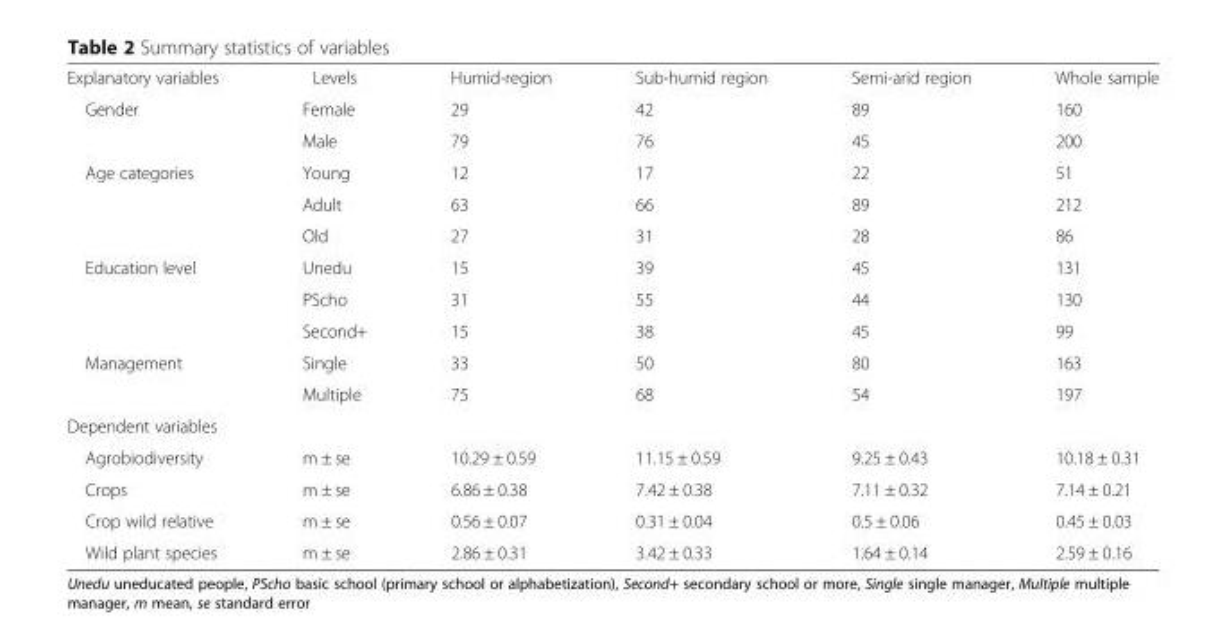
<table><tbody><tr><td>Explanatory variables</td><td>Levels</td><td>Humid-region</td><td>Sub-humid region</td><td>Semi-arid region</td><td>Whole sample</td></tr><tr><td rowspan="2">Gender</td><td>Female</td><td>29</td><td>42</td><td>89</td><td>160</td></tr><tr><td>Male</td><td>79</td><td>76</td><td>45</td><td>200</td></tr><tr><td rowspan="3">Age categories</td><td>Young</td><td>12</td><td>17</td><td>22</td><td>51</td></tr><tr><td>Adult</td><td>63</td><td>66</td><td>89</td><td>212</td></tr><tr><td>Old</td><td>27</td><td>31</td><td>28</td><td>86</td></tr><tr><td rowspan="3">Education level</td><td>Unedu</td><td>15</td><td>39</td><td>45</td><td>131</td></tr><tr><td>PScho</td><td>31</td><td>55</td><td>44</td><td>130</td></tr><tr><td>Second+</td><td>15</td><td>38</td><td>45</td><td>99</td></tr><tr><td rowspan="2">Management</td><td>Single</td><td>33</td><td>50</td><td>80</td><td>163</td></tr><tr><td>Multiple</td><td>75</td><td>68</td><td>54</td><td>197</td></tr><tr><td colspan="6">Dependent variables</td></tr><tr><td>Agrobiodiversity</td><td>m ± se</td><td>10.29 ± 0.59</td><td>11.15 ± 0.59</td><td>9.25 ± 0.43</td><td>10.18 ± 0.31</td></tr><tr><td>Crops</td><td>m ± se</td><td>6.86 ± 0.38</td><td>7.42 ± 0.38</td><td>7.11 ± 0.32</td><td>7.14 ± 0.21</td></tr><tr><td>Crop wild relative</td><td>m ± se</td><td>0.56 ± 0.07</td><td>0.31 ± 0.04</td><td>0.5 ± 0.06</td><td>0.45 ± 0.03</td></tr><tr><td>Wild plant species</td><td>m ± se</td><td>2.86 ± 0.31</td><td>3.42 ± 0.33</td><td>1.64 ± 0.14</td><td>2.59 ± 0.16</td></tr></tbody></table>